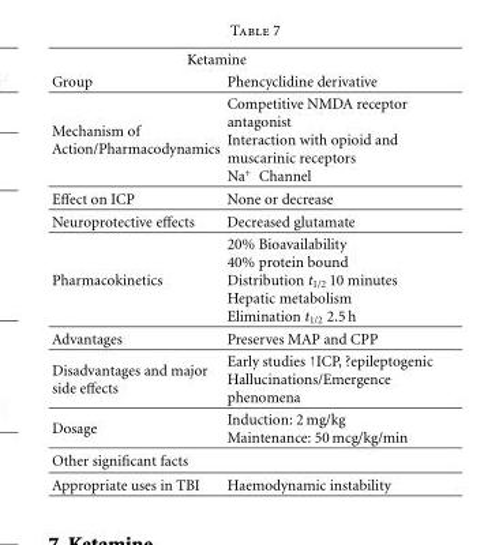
<table><thead><tr><td colspan="2">Ketamine</td></tr><tr><td>Group</td><td>Phencyclidine derivative</td></tr></thead><tbody><tr><td>Mechanism of Action/Pharmacodynamics</td><td>Competitive NMDA receptor antagonist Interaction with opioid and muscarinic receptors Na<sup>+</sup> Channel</td></tr><tr><td>Effect on ICP</td><td>None or decrease</td></tr><tr><td>Neuroprotective effects</td><td>Decreased glutamate</td></tr><tr><td>Pharmacokinetics</td><td>20% Bioavailability 40% protein bound Distribution t<sub>1/2</sub> 10 minutes Hepatic metabolism Elimination t<sub>1/2</sub> 2.5 h</td></tr><tr><td>Advantages</td><td>Preserves MAP and CPP</td></tr><tr><td>Disadvantages and major side effects</td><td>Early studies ↑ICP, ?epileptogenic Hallucinations/Emergence phenomena</td></tr><tr><td>Dosage</td><td>Induction: 2 mg/kg Maintenance: 50 mcg/kg/min</td></tr><tr><td colspan="2">Other significant facts</td></tr><tr><td>Appropriate uses in TBI</td><td>Haemodynamic instability</td></tr></tbody></table>